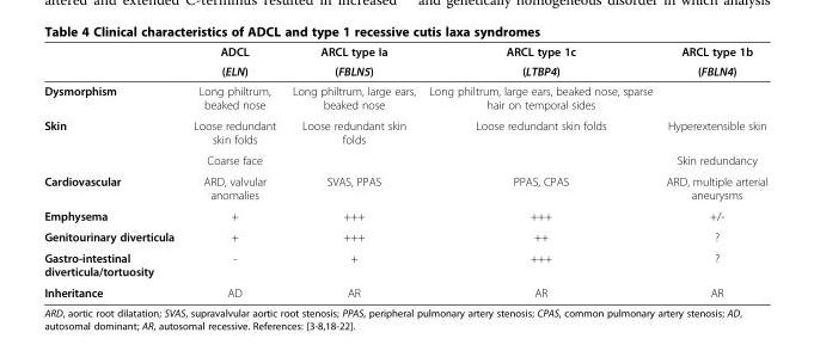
<table><thead><tr><td rowspan="2"></td><td rowspan="2">ADCL (ELN)</td><td rowspan="2">ARCL type Ia (FBLN5)</td><td rowspan="2">ARCL type 1c (LTBP4)</td><td rowspan="2">ARCL type 1b (FBLN4)</td></tr><tr></tr></thead><tbody><tr><td>Dysmorphism</td><td>Long philtrum, beaked nose</td><td>Long philtrum, large ears, beaked nose</td><td>Long philtrum, large ears, beaked nose, sparse hair on temporal sides</td><td></td></tr><tr><td rowspan="2">Skin</td><td>Loose redundant skin folds</td><td rowspan="2">Loose redundant skin folds</td><td rowspan="2">Loose redundant skin folds</td><td>Hyperextensible skin</td></tr><tr><td>Coarse face</td><td>Skin redundancy</td></tr><tr><td>Cardiovascular</td><td>ARD, valvular anomalies</td><td>SVAS, PPAS</td><td>PPAS, CPAS</td><td>ARD, multiple arterial aneurysms</td></tr><tr><td>Emphysema</td><td>+</td><td>+++</td><td>+++</td><td>+/-</td></tr><tr><td>Genitourinary diverticula</td><td>+</td><td>+++</td><td>++</td><td>?</td></tr><tr><td>Gastro-intestinal diverticula/tortuosity</td><td>-</td><td>+</td><td>+++</td><td>?</td></tr><tr><td>Inheritance</td><td>AD</td><td>AR</td><td>AR</td><td>AR</td></tr></tbody></table>